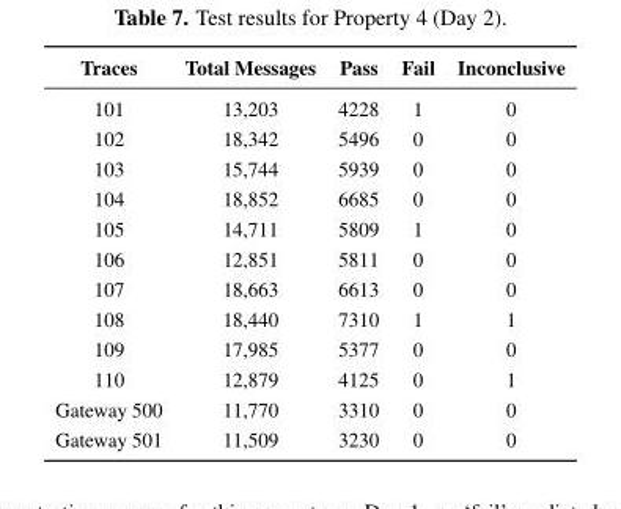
<table><thead><tr><td>Traces</td><td>Total Messages</td><td>Pass</td><td>Fail</td><td>Inconclusive</td></tr></thead><tbody><tr><td>101</td><td>13,203</td><td>4228</td><td>1</td><td>0</td></tr><tr><td>102</td><td>18,342</td><td>5496</td><td>0</td><td>0</td></tr><tr><td>103</td><td>15,744</td><td>5939</td><td>0</td><td>0</td></tr><tr><td>104</td><td>18,852</td><td>6685</td><td>0</td><td>0</td></tr><tr><td>105</td><td>14,711</td><td>5809</td><td>1</td><td>0</td></tr><tr><td>106</td><td>12,851</td><td>5811</td><td>0</td><td>0</td></tr><tr><td>107</td><td>18,663</td><td>6613</td><td>0</td><td>0</td></tr><tr><td>108</td><td>18,440</td><td>7310</td><td>1</td><td>1</td></tr><tr><td>109</td><td>17,985</td><td>5377</td><td>0</td><td>0</td></tr><tr><td>110</td><td>12,879</td><td>4125</td><td>0</td><td>1</td></tr><tr><td>Gateway 500</td><td>11,770</td><td>3310</td><td>0</td><td>0</td></tr><tr><td>Gateway 501</td><td>11,509</td><td>3230</td><td>0</td><td>0</td></tr></tbody></table>